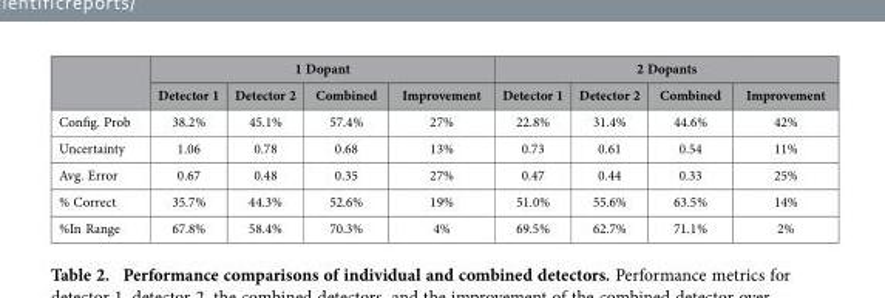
<table><thead><tr><td rowspan="2"></td><td colspan="4">1 Dopant</td><td colspan="4">2 Dopants</td></tr><tr><td>Detector 1</td><td>Detector 2</td><td>Combined</td><td>Improvement</td><td>Detector 1</td><td>Detector 2</td><td>Combined</td><td>Improvement</td></tr></thead><tbody><tr><td>Config. Prob</td><td>38.2%</td><td>45.1%</td><td>57.4%</td><td>27%</td><td>22.8%</td><td>31.4%</td><td>44.6%</td><td>42%</td></tr><tr><td>Uncertainty</td><td>1.06</td><td>0.78</td><td>0.68</td><td>13%</td><td>0.73</td><td>0.61</td><td>0.54</td><td>11%</td></tr><tr><td>Avg. Error</td><td>0.67</td><td>0.48</td><td>0.35</td><td>27%</td><td>0.47</td><td>0.44</td><td>0.33</td><td>25%</td></tr><tr><td>% Correct</td><td>35.7%</td><td>44.3%</td><td>52.6%</td><td>19%</td><td>51.0%</td><td>55.6%</td><td>63.5%</td><td>14%</td></tr><tr><td>%In Range</td><td>67.8%</td><td>58.4%</td><td>70.3%</td><td>4%</td><td>69.5%</td><td>62.7%</td><td>71.1%</td><td>2%</td></tr></tbody></table>